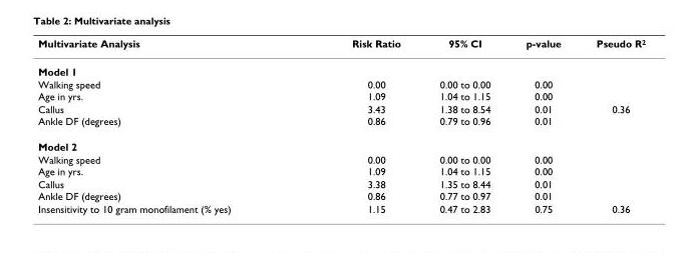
<table><thead><tr><td>Multivariate Analysis</td><td>Risk Ratio</td><td>95% CI</td><td>p-value</td><td>Pseudo R<sup>2</sup></td></tr></thead><tbody><tr><td colspan="5">Model 1</td></tr><tr><td>Walking speed Age in yrs.</td><td>0.00 1.09</td><td>0.00 to 0.00 1.04 to 1.15</td><td>0.00 0.00</td><td></td></tr><tr><td>Callus Ankle DF (degrees)</td><td>3.43 0.86</td><td>1.38 to 8.54 0.79 to 0.96</td><td>0.01 0.01</td><td>0.36</td></tr><tr><td colspan="5">Model 2</td></tr><tr><td>Walking speed Age in yrs.</td><td>0.00 1.09</td><td>0.00 to 0.00 1.04 to 1.15</td><td>0.00 0.00</td><td></td></tr><tr><td>Callus Ankle DF (degrees)</td><td>3.38 0.86</td><td>1.35 to 8.44 0.77 to 0.97</td><td>0.01 0.01</td><td></td></tr><tr><td>Insensitivity to 10 gram monofilament (% yes)</td><td>1.15</td><td>0.47 to 2.83</td><td>0.75</td><td>0.36</td></tr></tbody></table>